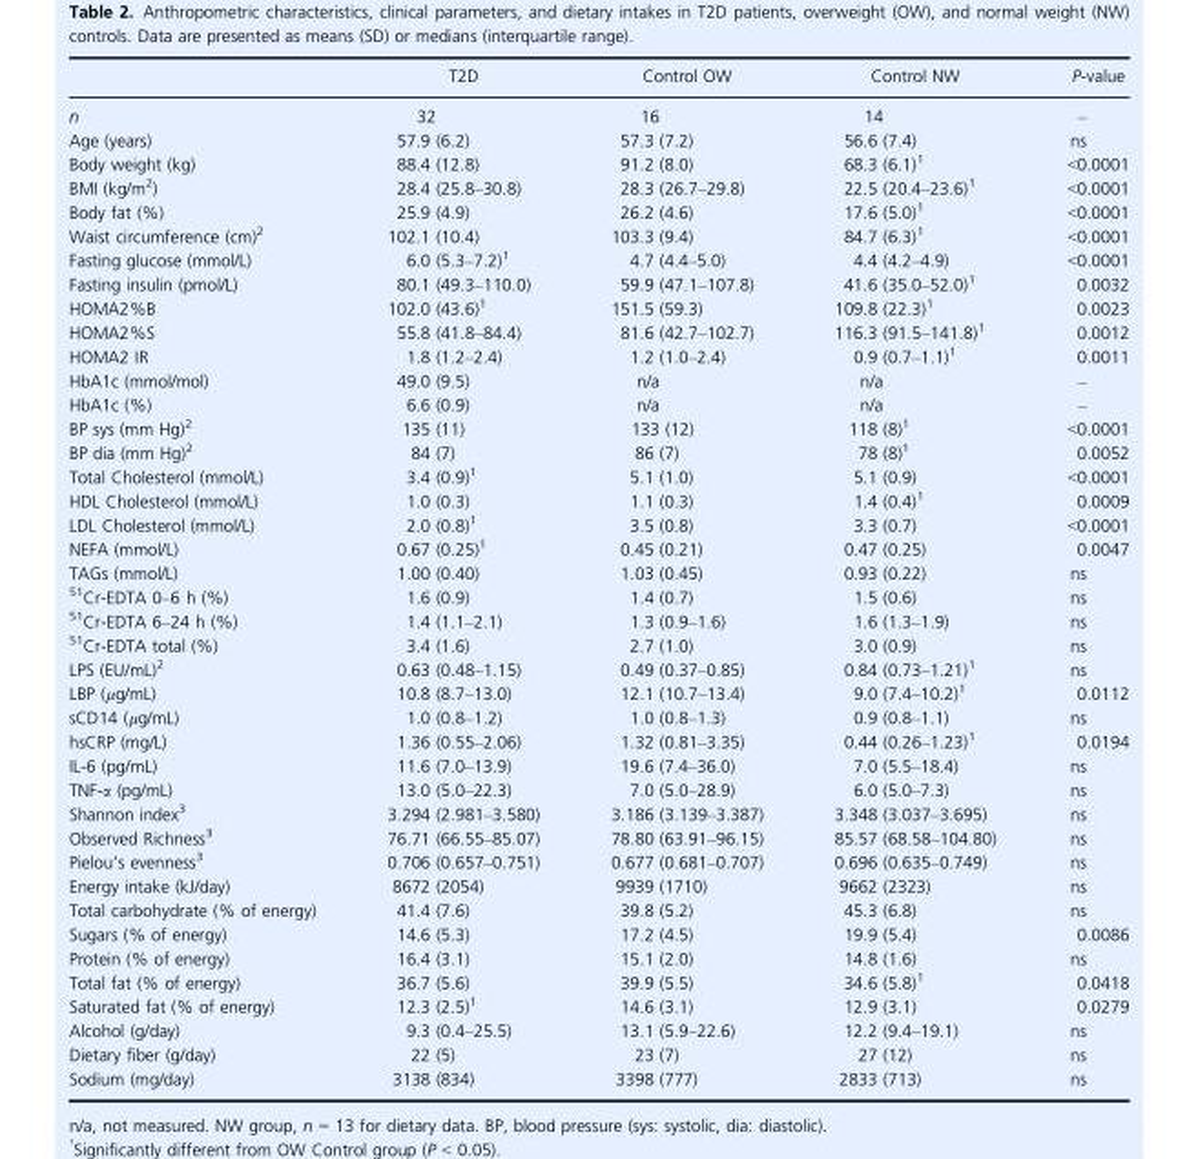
<table><thead><tr><td></td><td>T2D</td><td>Control OW</td><td>Control NW</td><td>P-value</td></tr></thead><tbody><tr><td>n</td><td>32</td><td>16</td><td>14</td><td>–</td></tr><tr><td>Age (years)</td><td>57.9 (6.2)</td><td>57.3 (7.2)</td><td>56.6 (7.4)</td><td>ns</td></tr><tr><td>Body weight (kg)</td><td>88.4 (12.8)</td><td>91.2 (8.0)</td><td>68.3 (6.1)1</td><td>&lt;0.0001</td></tr><tr><td>BMI (kg/m<sup>2</sup>)</td><td>28.4 (25.8–30.8)</td><td>28.3 (26.7–29.8)</td><td>22.5 (20.4–23.6)1</td><td>&lt;0.0001</td></tr><tr><td>Body fat (%)</td><td>25.9 (4.9)</td><td>26.2 (4.6)</td><td>17.6 (5.0)1</td><td>&lt;0.0001</td></tr><tr><td>Waist circumference (cm)2</td><td>102.1 (10.4)</td><td>103.3 (9.4)</td><td>84.7 (6.3)1</td><td>&lt;0.0001</td></tr><tr><td>Fasting glucose (mmol/L)</td><td>6.0 (5.3–7.2)1</td><td>4.7 (4.4–5.0)</td><td>4.4 (4.2–4.9)</td><td>&lt;0.0001</td></tr><tr><td>Fasting insulin (pmol/L)</td><td>80.1 (49.3–110.0)</td><td>59.9 (47.1–107.8)</td><td>41.6 (35.0–52.0)1</td><td>0.0032</td></tr><tr><td>HOMA2%B</td><td>102.0 (43.6)1</td><td>151.5 (59.3)</td><td>109.8 (22.3)1</td><td>0.0023</td></tr><tr><td>HOMA2%S</td><td>55.8 (41.8–84.4)</td><td>81.6 (42.7–102.7)</td><td>116.3 (91.5–141.8)1</td><td>0.0012</td></tr><tr><td>HOMA2 IR</td><td>1.8 (1.2–2.4)</td><td>1.2 (1.0–2.4)</td><td>0.9 (0.7–1.1)1</td><td>0.0011</td></tr><tr><td>HbA1c (mmol/mol)</td><td>49.0 (9.5)</td><td>n/a</td><td>n/a</td><td>–</td></tr><tr><td>HbA1c (%)</td><td>6.6 (0.9)</td><td>n/a</td><td>n/a</td><td>–</td></tr><tr><td>BP sys (mm Hg)2</td><td>135 (11)</td><td>133 (12)</td><td>118 (8)1</td><td>&lt;0.0001</td></tr><tr><td>BP dia (mm Hg)2</td><td>84 (7)</td><td>86 (7)</td><td>78 (8)1</td><td>0.0052</td></tr><tr><td>Total Cholesterol (mmol/L)</td><td>3.4 (0.9)1</td><td>5.1 (1.0)</td><td>5.1 (0.9)</td><td>&lt;0.0001</td></tr><tr><td>HDL Cholesterol (mmol/L)</td><td>1.0 (0.3)</td><td>1.1 (0.3)</td><td>1.4 (0.4)1</td><td>0.0009</td></tr><tr><td>LDL Cholesterol (mmol/L)</td><td>2.0 (0.8)1</td><td>3.5 (0.8)</td><td>3.3 (0.7)</td><td>&lt;0.0001</td></tr><tr><td>NEFA (mmol/L)</td><td>0.67 (0.25)1</td><td>0.45 (0.21)</td><td>0.47 (0.25)</td><td>0.0047</td></tr><tr><td>TAGs (mmol/L)</td><td>1.00 (0.40)</td><td>1.03 (0.45)</td><td>0.93 (0.22)</td><td>ns</td></tr><tr><td><sup>51</sup>Cr-EDTA 0–6 h (%)</td><td>1.6 (0.9)</td><td>1.4 (0.7)</td><td>1.5 (0.6)</td><td>ns</td></tr><tr><td><sup>51</sup>Cr-EDTA 6–24 h (%)</td><td>1.4 (1.1–2.1)</td><td>1.3 (0.9–1.6)</td><td>1.6 (1.3–1.9)</td><td>ns</td></tr><tr><td><sup>51</sup>Cr-EDTA total (%)</td><td>3.4 (1.6)</td><td>2.7 (1.0)</td><td>3.0 (0.9)</td><td>ns</td></tr><tr><td>LPS (EU/mL)2</td><td>0.63 (0.48–1.15)</td><td>0.49 (0.37–0.85)</td><td>0.84 (0.73–1.21)1</td><td>ns</td></tr><tr><td>LBP (μg/mL)</td><td>10.8 (8.7–13.0)</td><td>12.1 (10.7–13.4)</td><td>9.0 (7.4–10.2)1</td><td>0.0112</td></tr><tr><td>sCD14 (μg/mL)</td><td>1.0 (0.8–1.2)</td><td>1.0 (0.8–1.3)</td><td>0.9 (0.8–1.1)</td><td>ns</td></tr><tr><td>hsCRP (mg/L)</td><td>1.36 (0.55–2.06)</td><td>1.32 (0.81–3.35)</td><td>0.44 (0.26–1.23)1</td><td>0.0194</td></tr><tr><td>IL-6 (pg/mL)</td><td>11.6 (7.0–13.9)</td><td>19.6 (7.4–36.0)</td><td>7.0 (5.5–18.4)</td><td>ns</td></tr><tr><td>TNF-α (pg/mL)</td><td>13.0 (5.0–22.3)</td><td>7.0 (5.0–28.9)</td><td>6.0 (5.0–7.3)</td><td>ns</td></tr><tr><td>Shannon index3</td><td>3.294 (2.981–3.580)</td><td>3.186 (3.139–3.387)</td><td>3.348 (3.037–3.695)</td><td>ns</td></tr><tr><td>Observed Richness3</td><td>76.71 (66.55–85.07)</td><td>78.80 (63.91–96.15)</td><td>85.57 (68.58–104.80)</td><td>ns</td></tr><tr><td>Pielou’s evenness3</td><td>0.706 (0.657–0.751)</td><td>0.677 (0.681–0.707)</td><td>0.696 (0.635–0.749)</td><td>ns</td></tr><tr><td>Energy intake (kJ/day)</td><td>8672 (2054)</td><td>9939 (1710)</td><td>9662 (2323)</td><td>ns</td></tr><tr><td>Total carbohydrate (% of energy)</td><td>41.4 (7.6)</td><td>39.8 (5.2)</td><td>45.3 (6.8)</td><td>ns</td></tr><tr><td>Sugars (% of energy)</td><td>14.6 (5.3)</td><td>17.2 (4.5)</td><td>19.9 (5.4)</td><td>0.0086</td></tr><tr><td>Protein (% of energy)</td><td>16.4 (3.1)</td><td>15.1 (2.0)</td><td>14.8 (1.6)</td><td>ns</td></tr><tr><td>Total fat (% of energy)</td><td>36.7 (5.6)</td><td>39.9 (5.5)</td><td>34.6 (5.8)1</td><td>0.0418</td></tr><tr><td>Saturated fat (% of energy)</td><td>12.3 (2.5)1</td><td>14.6 (3.1)</td><td>12.9 (3.1)</td><td>0.0279</td></tr><tr><td>Alcohol (g/day)</td><td>9.3 (0.4–25.5)</td><td>13.1 (5.9–22.6)</td><td>12.2 (9.4–19.1)</td><td>ns</td></tr><tr><td>Dietary fiber (g/day)</td><td>22 (5)</td><td>23 (7)</td><td>27 (12)</td><td>ns</td></tr><tr><td>Sodium (mg/day)</td><td>3138 (834)</td><td>3398 (777)</td><td>2833 (713)</td><td>ns</td></tr></tbody></table>